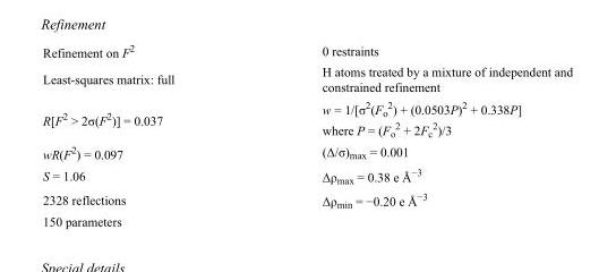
<table><tbody><tr><td>Refinement on F<sup>2</sup></td><td>0 restraints</td></tr><tr><td>Least-squares matrix: full</td><td>H atoms treated by a mixture of independent and constrained refinement</td></tr><tr><td>R[F<sup>2</sup> &gt; 2σ(F<sup>2</sup>)] = 0.037</td><td>w = 1/[σ<sup>2</sup>(F<sub>o</sub> <sup>2</sup>) + (0.0503P)<sup>2</sup> + 0.338P] where P = (F<sub>o</sub> <sup>2</sup> + 2F<sub>c</sub> <sup>2</sup>)/3</td></tr><tr><td>wR(F<sup>2</sup>) = 0.097</td><td>(Δ/σ)<sub>max</sub> = 0.001</td></tr><tr><td>S = 1.06</td><td>Δρ<sub>max</sub> = 0.38 e Å<sup>−3</sup></td></tr><tr><td>2328 reflections</td><td>Δρ<sub>min</sub> = −0.20 e Å<sup>−3</sup></td></tr><tr><td>150 parameters</td><td></td></tr></tbody></table>